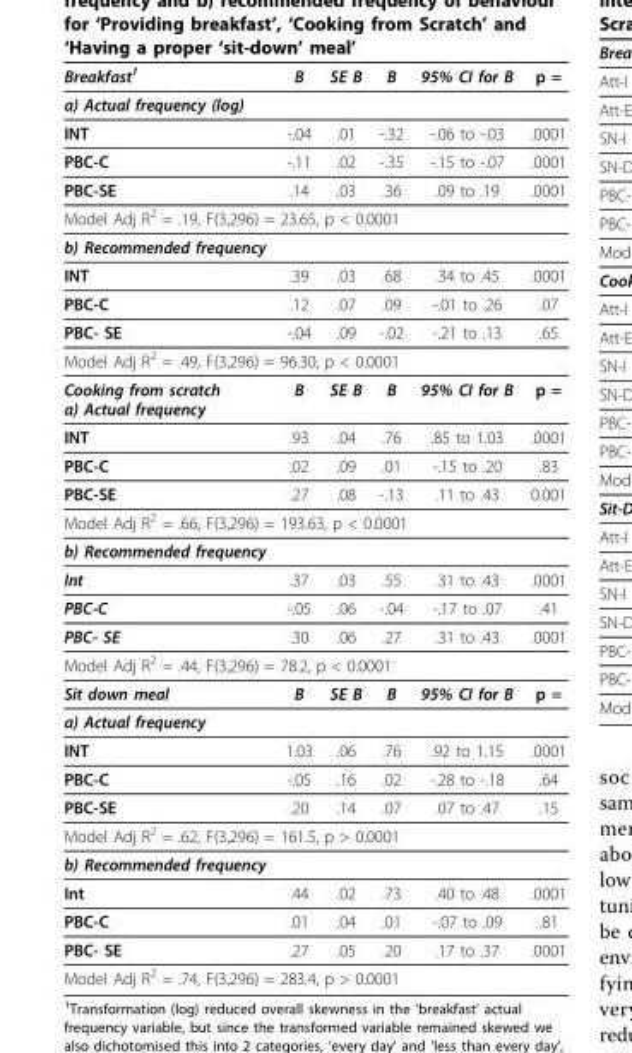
<table><thead><tr><td>Breakfast<sup>1</sup></td><td>B</td><td>SE B</td><td>Β</td><td>95% CI for B</td><td>p =</td></tr></thead><tbody><tr><td colspan="6">a) Actual frequency (log)</td></tr><tr><td>INT</td><td>-.04</td><td>.01</td><td>-.32</td><td>-.06 to -.03</td><td>.0001</td></tr><tr><td>PBC-C</td><td>-.11</td><td>.02</td><td>-.35</td><td>-.15 to -.07</td><td>.0001</td></tr><tr><td>PBC-SE</td><td>.14</td><td>.03</td><td>.36</td><td>.09 to .19</td><td>.0001</td></tr><tr><td colspan="6">Model Adj R<sup>2</sup> = .19, F(3,296) = 23.65, p &lt; 0.0001</td></tr><tr><td colspan="6">b) Recommended frequency</td></tr><tr><td>INT</td><td>.39</td><td>.03</td><td>.68</td><td>.34 to .45</td><td>.0001</td></tr><tr><td>PBC-C</td><td>.12</td><td>.07</td><td>.09</td><td>-.01 to .26</td><td>.07</td></tr><tr><td>PBC- SE</td><td>-.04</td><td>.09</td><td>-.02</td><td>-.21 to .13</td><td>.65</td></tr><tr><td colspan="6">Model Adj R<sup>2</sup> = .49, F(3,296) = 96.30, p &lt; 0.0001</td></tr><tr><td>Cooking from scratch a) Actual frequency</td><td>B</td><td>SE B</td><td>Β</td><td>95% CI for B</td><td>p =</td></tr><tr><td>INT</td><td>.93</td><td>.04</td><td>.76</td><td>.85 to 1.03</td><td>.0001</td></tr><tr><td>PBC-C</td><td>.02</td><td>.09</td><td>.01</td><td>-.15 to .20</td><td>.83</td></tr><tr><td>PBC-SE</td><td>.27</td><td>.08</td><td>-.13</td><td>.11 to .43</td><td>0.001</td></tr><tr><td colspan="6">Model Adj R<sup>2</sup> = .66, F(3,296) = 193.63, p &lt; 0.0001</td></tr><tr><td colspan="6">b) Recommended frequency</td></tr><tr><td>Int</td><td>.37</td><td>.03</td><td>.55</td><td>.31 to .43</td><td>.0001</td></tr><tr><td>PBC-C</td><td>-.05</td><td>.06</td><td>-.04</td><td>-.17 to .07</td><td>.41</td></tr><tr><td>PBC- SE</td><td>.30</td><td>.06</td><td>.27</td><td>.31 to .43</td><td>.0001</td></tr><tr><td colspan="6">Model Adj R<sup>2</sup> = .44, F(3,296) = 78.2, p &lt; 0.0001</td></tr><tr><td>Sit down meal</td><td>B</td><td>SE B</td><td>Β</td><td>95% CI for B</td><td>p =</td></tr><tr><td colspan="6">a) Actual frequency</td></tr><tr><td>INT</td><td>1.03</td><td>.06</td><td>.76</td><td>.92 to 1.15</td><td>.0001</td></tr><tr><td>PBC-C</td><td>-.05</td><td>.16</td><td>.02</td><td>-.28 to -.18</td><td>.64</td></tr><tr><td>PBC-SE</td><td>.20</td><td>.14</td><td>.07</td><td>.07 to .47</td><td>.15</td></tr><tr><td colspan="6">Model Adj R<sup>2</sup> = .62, F(3,296) = 161.5, p &gt; 0.0001</td></tr><tr><td colspan="6">b) Recommended frequency</td></tr><tr><td>Int</td><td>.44</td><td>.02</td><td>.73</td><td>.40 to .48</td><td>.0001</td></tr><tr><td>PBC-C</td><td>.01</td><td>.04</td><td>.01</td><td>-.07 to .09</td><td>.81</td></tr><tr><td>PBC- SE</td><td>.27</td><td>.05</td><td>.20</td><td>.17 to .37</td><td>.0001</td></tr><tr><td colspan="6">Model Adj R<sup>2</sup> = .74, F(3,296) = 283.4, p &gt; 0.0001</td></tr></tbody></table>